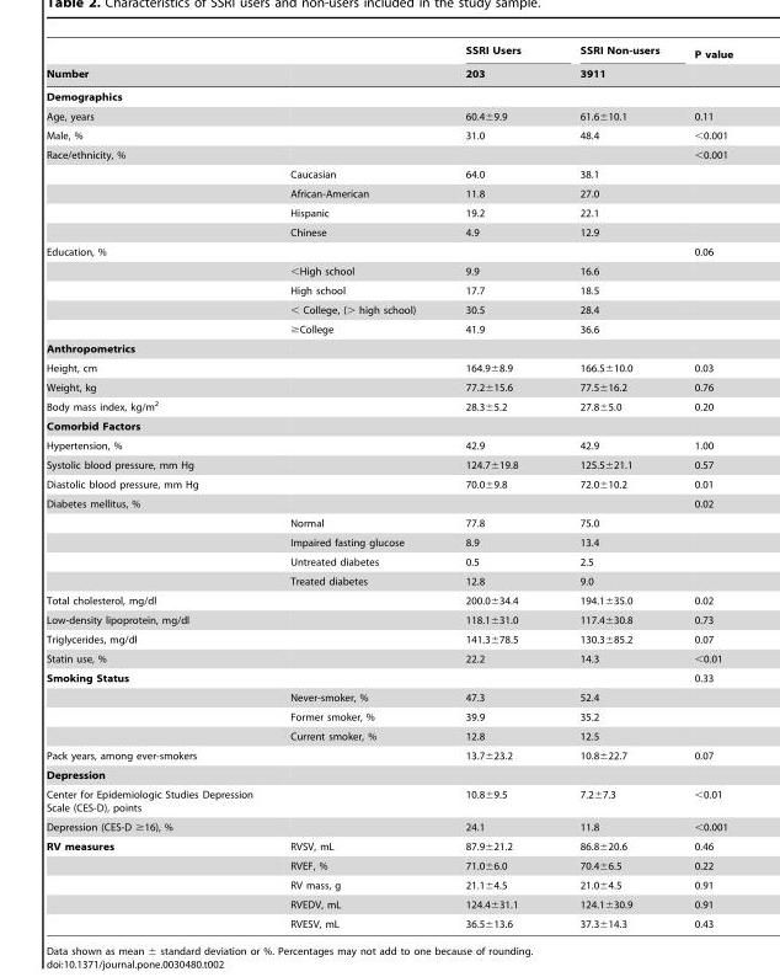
<table><thead><tr><td rowspan="2">Number</td><td rowspan="2"></td><td rowspan="2">SSRI Users 203</td><td rowspan="2">SSRI Non-users 3911</td><td rowspan="2">P value</td></tr><tr></tr></thead><tbody><tr><td colspan="5">Demographics</td></tr><tr><td>Age, years</td><td></td><td>60.4±9.9</td><td>61.6±10.1</td><td>0.11</td></tr><tr><td>Male, %</td><td></td><td>31.0</td><td>48.4</td><td>&lt;0.001</td></tr><tr><td rowspan="5">Race/ethnicity, %</td><td></td><td></td><td></td><td>&lt;0.001</td></tr><tr><td>Caucasian</td><td>64.0</td><td>38.1</td><td></td></tr><tr><td>African-American</td><td>11.8</td><td>27.0</td><td></td></tr><tr><td>Hispanic</td><td>19.2</td><td>22.1</td><td></td></tr><tr><td>Chinese</td><td>4.9</td><td>12.9</td><td></td></tr><tr><td rowspan="5">Education, %</td><td></td><td></td><td></td><td>0.06</td></tr><tr><td>&lt;High school</td><td>9.9</td><td>16.6</td><td></td></tr><tr><td>High school</td><td>17.7</td><td>18.5</td><td></td></tr><tr><td>&lt; College, (&gt; high school)</td><td>30.5</td><td>28.4</td><td></td></tr><tr><td>≥College</td><td>41.9</td><td>36.6</td><td></td></tr><tr><td colspan="5">Anthropometrics</td></tr><tr><td>Height, cm</td><td></td><td>164.9±8.9</td><td>166.5±10.0</td><td>0.03</td></tr><tr><td>Weight, kg</td><td></td><td>77.2±15.6</td><td>77.5±16.2</td><td>0.76</td></tr><tr><td>Body mass index, kg/m<sup>2</sup></td><td></td><td>28.3±5.2</td><td>27.8±5.0</td><td>0.20</td></tr><tr><td colspan="5">Comorbid Factors</td></tr><tr><td>Hypertension, %</td><td></td><td>42.9</td><td>42.9</td><td>1.00</td></tr><tr><td>Systolic blood pressure, mm Hg</td><td></td><td>124.7±19.8</td><td>125.5±21.1</td><td>0.57</td></tr><tr><td>Diastolic blood pressure, mm Hg</td><td></td><td>70.0±9.8</td><td>72.0±10.2</td><td>0.01</td></tr><tr><td rowspan="5">Diabetes mellitus, %</td><td></td><td></td><td></td><td>0.02</td></tr><tr><td>Normal</td><td>77.8</td><td>75.0</td><td></td></tr><tr><td>Impaired fasting glucose</td><td>8.9</td><td>13.4</td><td></td></tr><tr><td>Untreated diabetes</td><td>0.5</td><td>2.5</td><td></td></tr><tr><td>Treated diabetes</td><td>12.8</td><td>9.0</td><td></td></tr><tr><td>Total cholesterol, mg/dl</td><td></td><td>200.0±34.4</td><td>194.1±35.0</td><td>0.02</td></tr><tr><td>Low-density lipoprotein, mg/dl</td><td></td><td>118.1±31.0</td><td>117.4±30.8</td><td>0.73</td></tr><tr><td>Triglycerides, mg/dl</td><td></td><td>141.3±78.5</td><td>130.3±85.2</td><td>0.07</td></tr><tr><td>Statin use, %</td><td></td><td>22.2</td><td>14.3</td><td>&lt;0.01</td></tr><tr><td rowspan="4">Smoking Status</td><td></td><td></td><td></td><td>0.33</td></tr><tr><td>Never-smoker, %</td><td>47.3</td><td>52.4</td><td></td></tr><tr><td>Former smoker, %</td><td>39.9</td><td>35.2</td><td></td></tr><tr><td>Current smoker, %</td><td>12.8</td><td>12.5</td><td></td></tr><tr><td>Pack years, among ever-smokers</td><td></td><td>13.7±23.2</td><td>10.8±22.7</td><td>0.07</td></tr><tr><td colspan="5">Depression</td></tr><tr><td>Center for Epidemiologic Studies Depression Scale (CES-D), points</td><td></td><td>10.8±9.5</td><td>7.2±7.3</td><td>&lt;0.01</td></tr><tr><td>Depression (CES-D ≥16), %</td><td></td><td>24.1</td><td>11.8</td><td>&lt;0.001</td></tr><tr><td rowspan="5">RV measures</td><td>RVSV, mL</td><td>87.9±21.2</td><td>86.8±20.6</td><td>0.46</td></tr><tr><td>RVEF, %</td><td>71.0±6.0</td><td>70.4±6.5</td><td>0.22</td></tr><tr><td>RV mass, g</td><td>21.1±4.5</td><td>21.0±4.5</td><td>0.91</td></tr><tr><td>RVEDV, mL</td><td>124.4±31.1</td><td>124.1±30.9</td><td>0.91</td></tr><tr><td>RVESV, mL</td><td>36.5±13.6</td><td>37.3±14.3</td><td>0.43</td></tr></tbody></table>